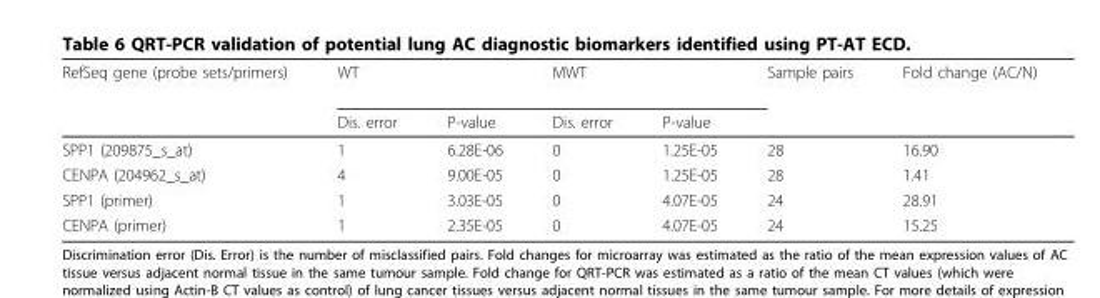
<table><thead><tr><td rowspan="2">RefSeq gene (probe sets/primers)</td><td colspan="2">WT</td><td colspan="2">MWT</td><td rowspan="2">Sample pairs</td><td rowspan="2">Fold change (AC/N)</td></tr><tr><td>Dis. error</td><td>P-value</td><td>Dis. error</td><td>P-value</td></tr></thead><tbody><tr><td>SPP1 (209875_s_at)</td><td>1</td><td>6.28E-06</td><td>0</td><td>1.25E-05</td><td>28</td><td>16.90</td></tr><tr><td>CENPA (204962_s_at)</td><td>4</td><td>9.00E-05</td><td>0</td><td>1.25E-05</td><td>28</td><td>1.41</td></tr><tr><td>SPP1 (primer)</td><td>1</td><td>3.03E-05</td><td>0</td><td>4.07E-05</td><td>24</td><td>28.91</td></tr><tr><td>CENPA (primer)</td><td>1</td><td>2.35E-05</td><td>0</td><td>4.07E-05</td><td>24</td><td>15.25</td></tr></tbody></table>